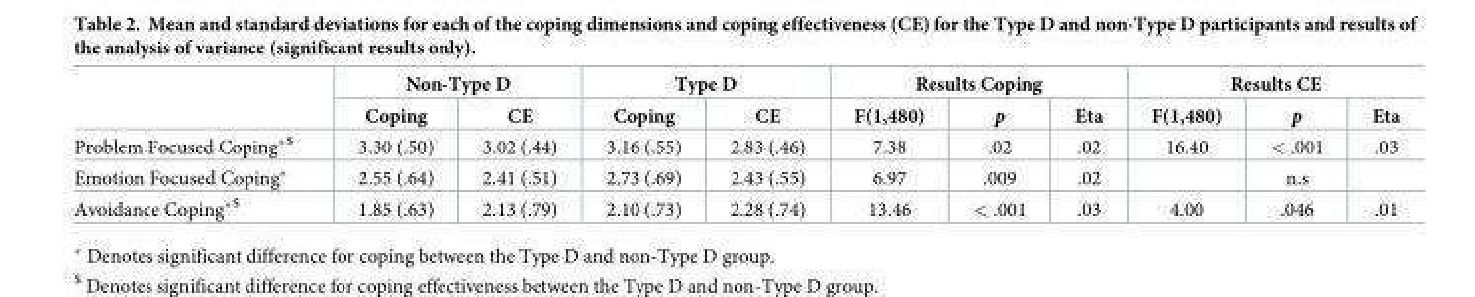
<table><thead><tr><td rowspan="2"></td><td colspan="2">Non-Type D</td><td colspan="2">Type D</td><td colspan="3">Results Coping</td><td colspan="3">Results CE</td></tr><tr><td>Coping</td><td>CE</td><td>Coping</td><td>CE</td><td>F(1,480)</td><td>p</td><td>Eta</td><td>F(1,480)</td><td>p</td><td>Eta</td></tr></thead><tbody><tr><td>Problem Focused Coping*<sup>$</sup></td><td>3.30 (.50)</td><td>3.02 (.44)</td><td>3.16 (.55)</td><td>2.83 (.46)</td><td>7.38</td><td>.02</td><td>.02</td><td>16.40</td><td>&lt; .001</td><td>.03</td></tr><tr><td>Emotion Focused Coping*</td><td>2.55 (.64)</td><td>2.41 (.51)</td><td>2.73 (.69)</td><td>2.43 (.55)</td><td>6.97</td><td>.009</td><td>.02</td><td></td><td>n.s</td><td></td></tr><tr><td>Avoidance Coping*<sup>$</sup></td><td>1.85 (.63)</td><td>2.13 (.79)</td><td>2.10 (.73)</td><td>2.28 (.74)</td><td>13.46</td><td>&lt; .001</td><td>.03</td><td>4.00</td><td>.046</td><td>.01</td></tr></tbody></table>